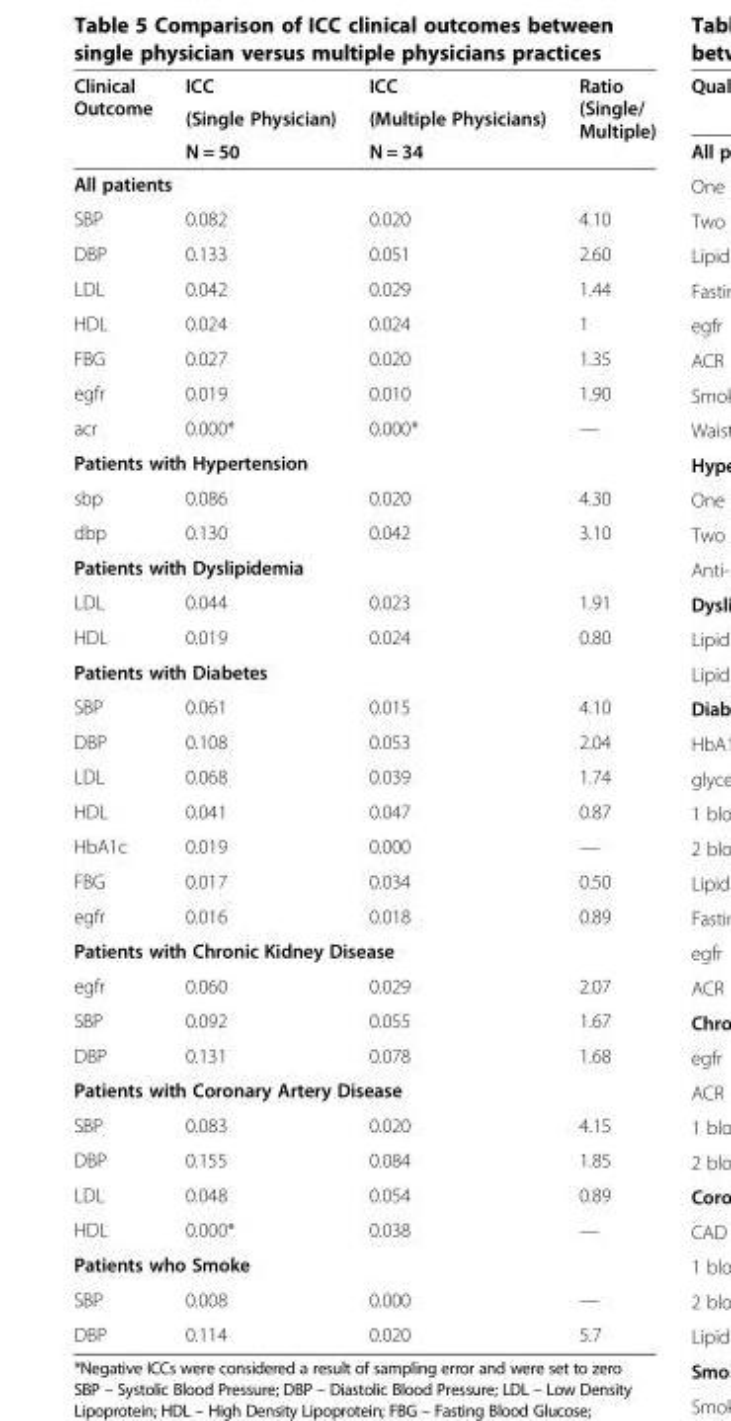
<table><thead><tr><td rowspan="3">Clinical Outcome</td><td rowspan="3">ICC (Single Physician) N = 50</td><td rowspan="3">ICC (Multiple Physicians) N = 34</td><td rowspan="3">Ratio (Single/ Multiple)</td></tr><tr></tr><tr></tr></thead><tbody><tr><td colspan="4">All patients</td></tr><tr><td>SBP</td><td>0.082</td><td>0.020</td><td>4.10</td></tr><tr><td>DBP</td><td>0.133</td><td>0.051</td><td>2.60</td></tr><tr><td>LDL</td><td>0.042</td><td>0.029</td><td>1.44</td></tr><tr><td>HDL</td><td>0.024</td><td>0.024</td><td>1</td></tr><tr><td>FBG</td><td>0.027</td><td>0.020</td><td>1.35</td></tr><tr><td>egfr</td><td>0.019</td><td>0.010</td><td>1.90</td></tr><tr><td>acr</td><td>0.000*</td><td>0.000*</td><td>—</td></tr><tr><td colspan="4">Patients with Hypertension</td></tr><tr><td>sbp</td><td>0.086</td><td>0.020</td><td>4.30</td></tr><tr><td>dbp</td><td>0.130</td><td>0.042</td><td>3.10</td></tr><tr><td colspan="4">Patients with Dyslipidemia</td></tr><tr><td>LDL</td><td>0.044</td><td>0.023</td><td>1.91</td></tr><tr><td>HDL</td><td>0.019</td><td>0.024</td><td>0.80</td></tr><tr><td colspan="4">Patients with Diabetes</td></tr><tr><td>SBP</td><td>0.061</td><td>0.015</td><td>4.10</td></tr><tr><td>DBP</td><td>0.108</td><td>0.053</td><td>2.04</td></tr><tr><td>LDL</td><td>0.068</td><td>0.039</td><td>1.74</td></tr><tr><td>HDL</td><td>0.041</td><td>0.047</td><td>0.87</td></tr><tr><td>HbA1c</td><td>0.019</td><td>0.000</td><td>—</td></tr><tr><td>FBG</td><td>0.017</td><td>0.034</td><td>0.50</td></tr><tr><td>egfr</td><td>0.016</td><td>0.018</td><td>0.89</td></tr><tr><td colspan="4">Patients with Chronic Kidney Disease</td></tr><tr><td>egfr</td><td>0.060</td><td>0.029</td><td>2.07</td></tr><tr><td>SBP</td><td>0.092</td><td>0.055</td><td>1.67</td></tr><tr><td>DBP</td><td>0.131</td><td>0.078</td><td>1.68</td></tr><tr><td colspan="4">Patients with Coronary Artery Disease</td></tr><tr><td>SBP</td><td>0.083</td><td>0.020</td><td>4.15</td></tr><tr><td>DBP</td><td>0.155</td><td>0.084</td><td>1.85</td></tr><tr><td>LDL</td><td>0.048</td><td>0.054</td><td>0.89</td></tr><tr><td>HDL</td><td>0.000*</td><td>0.038</td><td>—</td></tr><tr><td colspan="4">Patients who Smoke</td></tr><tr><td>SBP</td><td>0.008</td><td>0.000</td><td>—</td></tr><tr><td>DBP</td><td>0.114</td><td>0.020</td><td>5.7</td></tr></tbody></table>